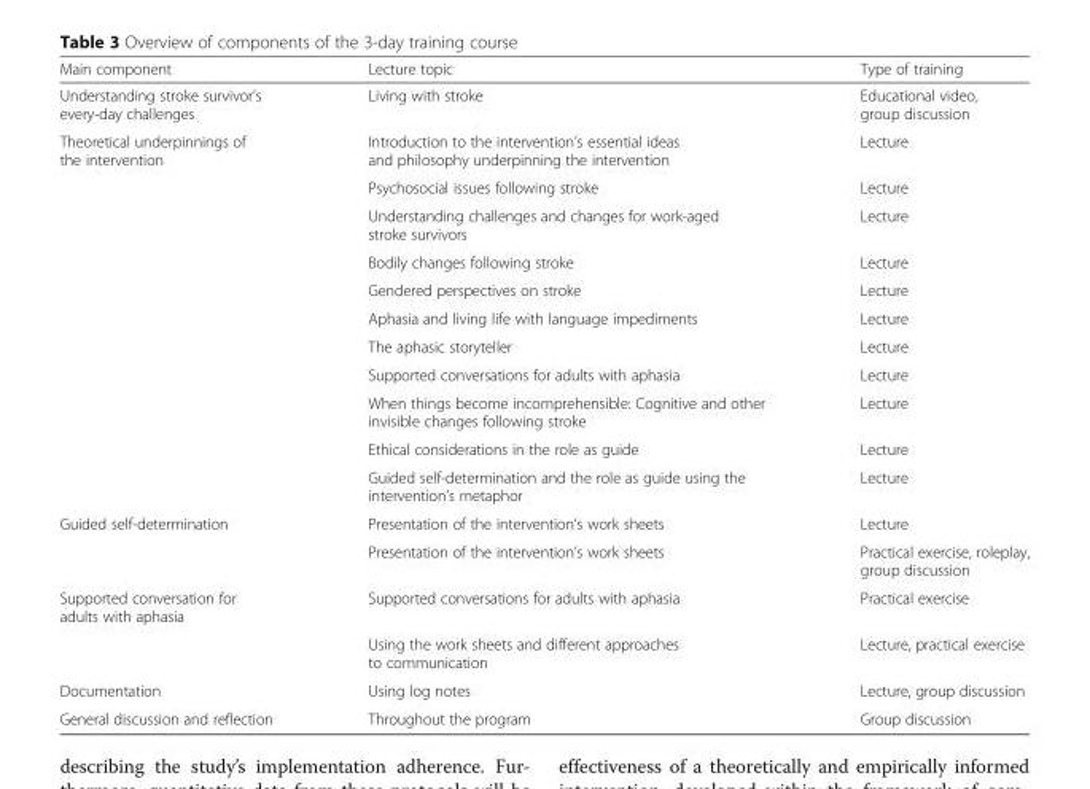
<table><thead><tr><td>Main component</td><td>Lecture topic</td><td>Type of training</td></tr></thead><tbody><tr><td>Understanding stroke survivor’s every-day challenges</td><td>Living with stroke</td><td>Educational video, group discussion</td></tr><tr><td rowspan="11">Theoretical underpinnings of the intervention</td><td>Introduction to the intervention’s essential ideas and philosophy underpinning the intervention</td><td>Lecture</td></tr><tr><td>Psychosocial issues following stroke</td><td>Lecture</td></tr><tr><td>Understanding challenges and changes for work-aged stroke survivors</td><td>Lecture</td></tr><tr><td>Bodily changes following stroke</td><td>Lecture</td></tr><tr><td>Gendered perspectives on stroke</td><td>Lecture</td></tr><tr><td>Aphasia and living life with language impediments</td><td>Lecture</td></tr><tr><td>The aphasic storyteller</td><td>Lecture</td></tr><tr><td>Supported conversations for adults with aphasia</td><td>Lecture</td></tr><tr><td>When things become incomprehensible: Cognitive and other invisible changes following stroke</td><td>Lecture</td></tr><tr><td>Ethical considerations in the role as guide</td><td>Lecture</td></tr><tr><td>Guided self-determination and the role as guide using the intervention’s metaphor</td><td>Lecture</td></tr><tr><td rowspan="2">Guided self-determination</td><td>Presentation of the intervention’s work sheets</td><td>Lecture</td></tr><tr><td>Presentation of the intervention’s work sheets</td><td>Practical exercise, roleplay, group discussion</td></tr><tr><td rowspan="2">Supported conversation for adults with aphasia</td><td>Supported conversations for adults with aphasia</td><td>Practical exercise</td></tr><tr><td>Using the work sheets and different approaches to communication</td><td>Lecture, practical exercise</td></tr><tr><td>Documentation</td><td>Using log notes</td><td>Lecture, group discussion</td></tr><tr><td>General discussion and reflection</td><td>Throughout the program</td><td>Group discussion</td></tr></tbody></table>